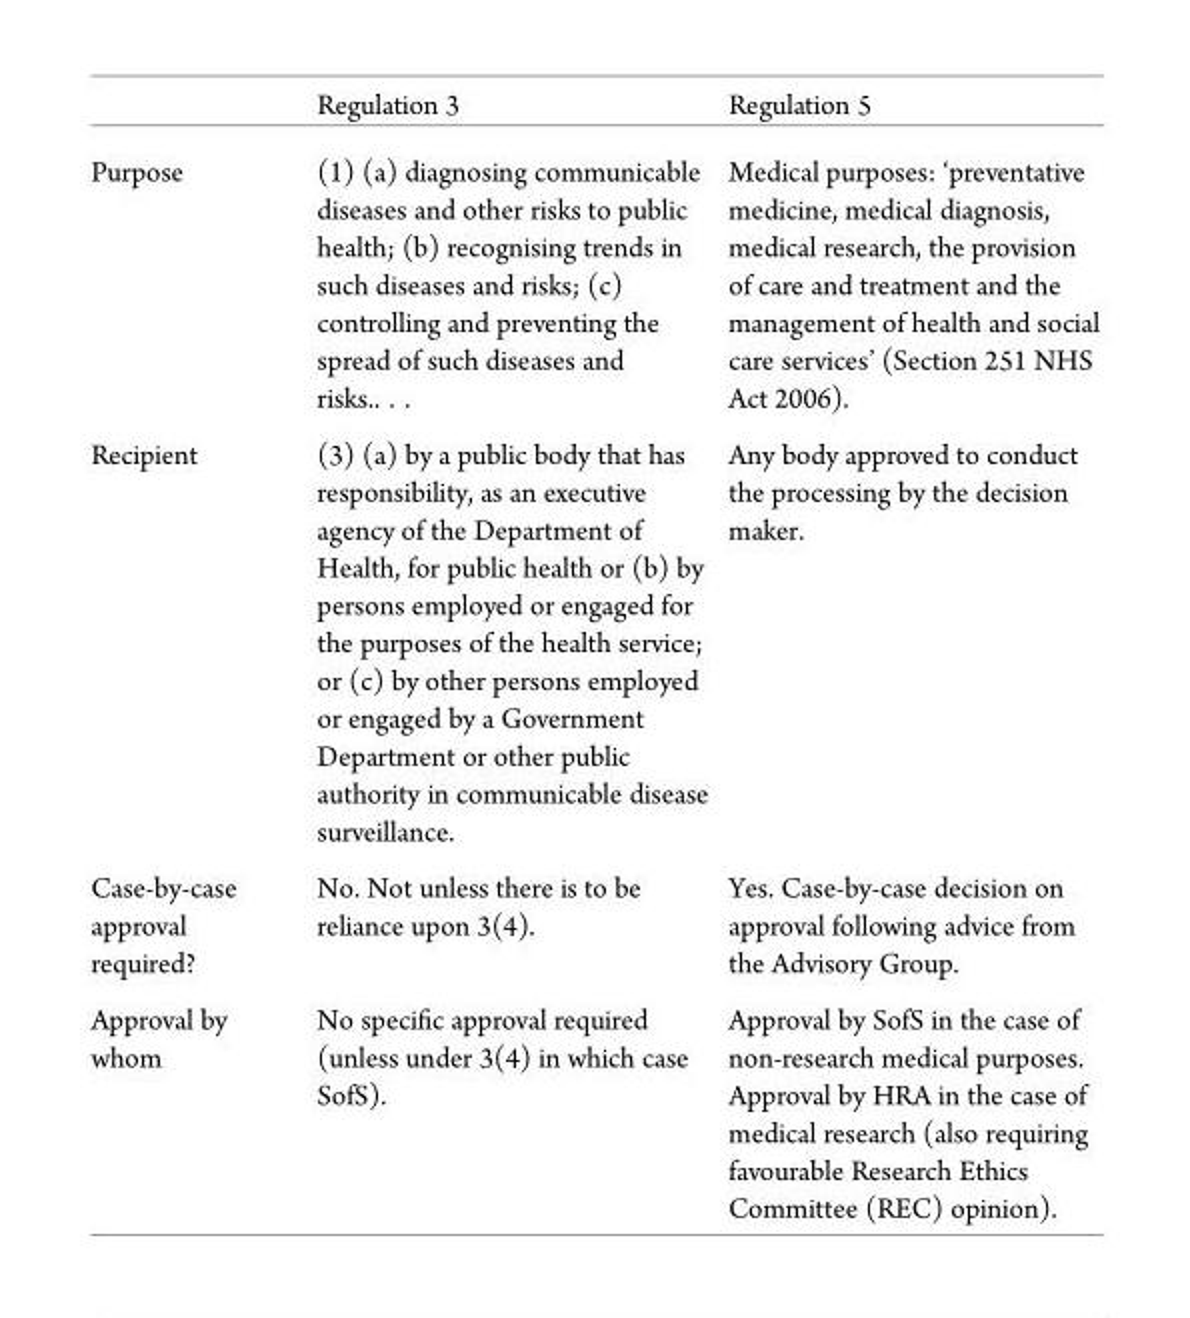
<table><thead><tr><td></td><td>Regulation 3</td><td>Regulation 5</td></tr></thead><tbody><tr><td>Purpose</td><td>(1) (a) diagnosing communicable diseases and other risks to public health; (b) recognising trends in such diseases and risks; (c) controlling and preventing the spread of such diseases and risks.. . .</td><td>Medical purposes: ‘preventative medicine, medical diagnosis, medical research, the provision of care and treatment and the management of health and social care services’ (Section 251 NHS Act 2006).</td></tr><tr><td>Recipient</td><td>(3) (a) by a public body that has responsibility, as an executive agency of the Department of Health, for public health or (b) by persons employed or engaged for the purposes of the health service; or (c) by other persons employed or engaged by a Government Department or other public authority in communicable disease surveillance.</td><td>Any body approved to conduct the processing by the decision maker.</td></tr><tr><td>Case-by-case approval required?</td><td>No. Not unless there is to be reliance upon 3(4).</td><td>Yes. Case-by-case decision on approval following advice from the Advisory Group.</td></tr><tr><td>Approval by whom</td><td>No specific approval required (unless under 3(4) in which case SofS).</td><td>Approval by SofS in the case of non-research medical purposes. Approval by HRA in the case of medical research (also requiring favourable Research Ethics Committee (REC) opinion).</td></tr></tbody></table>